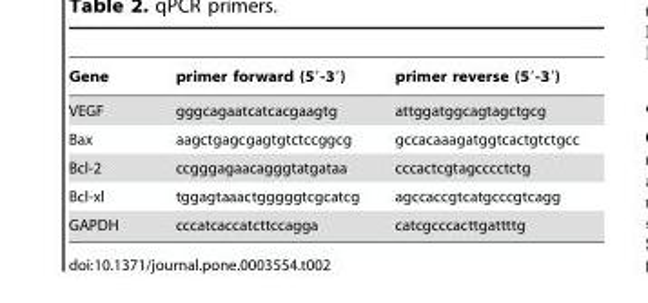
<table><thead><tr><td>Gene</td><td>primer forward (5′-3′)</td><td>primer reverse (5′-3′)</td></tr></thead><tbody><tr><td>VEGF</td><td>gggcagaatcatcacgaagtg</td><td>attggatggcagtagctgcg</td></tr><tr><td>Bax</td><td>aagctgagcgagtgtctccggcg</td><td>gccacaaagatggtcactgtctgcc</td></tr><tr><td>Bcl-2</td><td>ccgggagaacagggtatgataa</td><td>cccactcgtagcccctctg</td></tr><tr><td>Bcl-xl</td><td>tggagtaaactgggggtcgcatcg</td><td>agccaccgtcatgcccgtcagg</td></tr><tr><td>GAPDH</td><td>cccatcaccatcttccagga</td><td>catcgcccacttgattttg</td></tr></tbody></table>